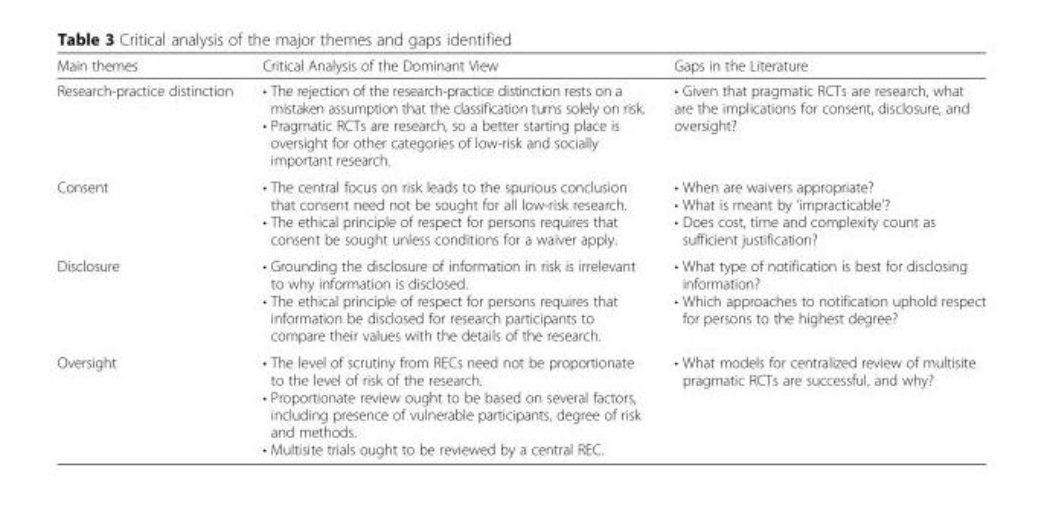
<table><thead><tr><td>Main themes</td><td>Critical Analysis of the Dominant View</td><td>Gaps in the Literature</td></tr></thead><tbody><tr><td>Research-practice distinction</td><td>• The rejection of the research-practice distinction rests on a mistaken assumption that the classification turns solely on risk. • Pragmatic RCTs are research, so a better starting place is oversight for other categories of low-risk and socially important research.</td><td>• Given that pragmatic RCTs are research, what are the implications for consent, disclosure, and oversight?</td></tr><tr><td>Consent</td><td>• The central focus on risk leads to the spurious conclusion that consent need not be sought for all low-risk research. • The ethical principle of respect for persons requires that consent be sought unless conditions for a waiver apply.</td><td>• When are waivers appropriate? • What is meant by ‘impracticable’? • Does cost, time and complexity count as sufficient justification?</td></tr><tr><td>Disclosure</td><td>• Grounding the disclosure of information in risk is irrelevant to why information is disclosed. • The ethical principle of respect for persons requires that information be disclosed for research participants to compare their values with the details of the research.</td><td>• What type of notification is best for disclosing information? • Which approaches to notification uphold respect for persons to the highest degree?</td></tr><tr><td>Oversight</td><td>• The level of scrutiny from RECs need not be proportionate to the level of risk of the research. • Proportionate review ought to be based on several factors, including presence of vulnerable participants, degree of risk and methods. • Multisite trials ought to be reviewed by a central REC.</td><td>• What models for centralized review of multisite pragmatic RCTs are successful, and why?</td></tr></tbody></table>